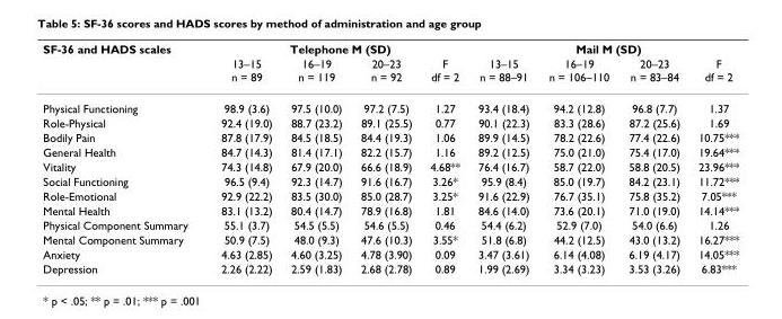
<table><thead><tr><td rowspan="2">SF-36 and HADS scales</td><td colspan="4">Telephone M (SD)</td><td colspan="4">Mail M (SD)</td></tr><tr><td>13–15 n = 89</td><td>16–19 n = 119</td><td>20–23 n = 92</td><td>F df = 2</td><td>13–15 n = 88–91</td><td>16–19 n = 106–110</td><td>20–23 n = 83–84</td><td>F df = 2</td></tr></thead><tbody><tr><td>Physical Functioning</td><td>98.9 (3.6)</td><td>97.5 (10.0)</td><td>97.2 (7.5)</td><td>1.27</td><td>93.4 (18.4)</td><td>94.2 (12.8)</td><td>96.8 (7.7)</td><td>1.37</td></tr><tr><td>Role-Physical</td><td>92.4 (19.0)</td><td>88.7 (23.2)</td><td>89.1 (25.5)</td><td>0.77</td><td>90.1 (22.3)</td><td>83.3 (28.6)</td><td>87.2 (25.6)</td><td>1.69</td></tr><tr><td>Bodily Pain</td><td>87.8 (17.9)</td><td>84.5 (18.5)</td><td>84.4 (19.3)</td><td>1.06</td><td>89.9 (14.5)</td><td>78.2 (22.6)</td><td>77.4 (22.6)</td><td>10.75***</td></tr><tr><td>General Health</td><td>84.7 (14.3)</td><td>81.4 (17.1)</td><td>82.2 (15.7)</td><td>1.16</td><td>89.2 (12.5)</td><td>75.0 (21.0)</td><td>75.4 (17.0)</td><td>19.64***</td></tr><tr><td>Vitality</td><td>74.3 (14.8)</td><td>67.9 (20.0)</td><td>66.6 (18.9)</td><td>4.68**</td><td>76.4 (16.7)</td><td>58.7 (22.0)</td><td>58.8 (20.5)</td><td>23.96***</td></tr><tr><td>Social Functioning</td><td>96.5 (9.4)</td><td>92.3 (14.7)</td><td>91.6 (16.7)</td><td>3.26*</td><td>95.9 (8.4)</td><td>85.0 (19.7)</td><td>84.2 (23.1)</td><td>11.72***</td></tr><tr><td>Role-Emotional</td><td>92.9 (22.2)</td><td>83.5 (30.0)</td><td>85.0 (28.7)</td><td>3.25*</td><td>91.6 (22.9)</td><td>76.7 (35.1)</td><td>75.8 (35.2)</td><td>7.05***</td></tr><tr><td>Mental Health</td><td>83.1 (13.2)</td><td>80.4 (14.7)</td><td>78.9 (16.8)</td><td>1.81</td><td>84.6 (14.0)</td><td>73.6 (20.1)</td><td>71.0 (19.0)</td><td>14.14***</td></tr><tr><td>Physical Component Summary</td><td>55.1 (3.7)</td><td>54.5 (5.5)</td><td>54.6 (5.5)</td><td>0.46</td><td>54.4 (6.2)</td><td>52.9 (7.0)</td><td>54.0 (6.6)</td><td>1.26</td></tr><tr><td>Mental Component Summary</td><td>50.9 (7.5)</td><td>48.0 (9.3)</td><td>47.6 (10.3)</td><td>3.55*</td><td>51.8 (6.8)</td><td>44.2 (12.5)</td><td>43.0 (13.2)</td><td>16.27***</td></tr><tr><td>Anxiety</td><td>4.63 (2.85)</td><td>4.60 (3.25)</td><td>4.78 (3.90)</td><td>0.09</td><td>3.47 (3.61)</td><td>6.14 (4.08)</td><td>6.19 (4.17)</td><td>14.05***</td></tr><tr><td>Depression</td><td>2.26 (2.22)</td><td>2.59 (1.83)</td><td>2.68 (2.78)</td><td>0.89</td><td>1.99 (2.69)</td><td>3.34 (3.23)</td><td>3.53 (3.26)</td><td>6.83***</td></tr></tbody></table>